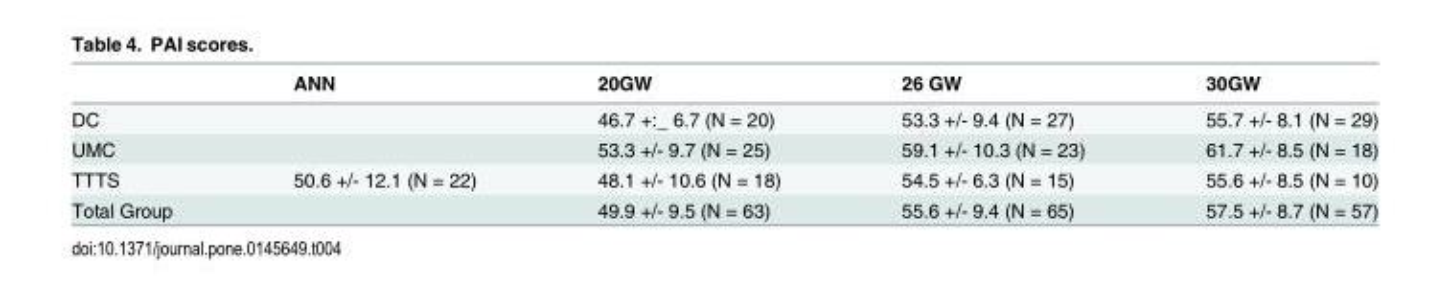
<table><thead><tr><td></td><td>ANN</td><td>20GW</td><td>26 GW</td><td>30GW</td></tr></thead><tbody><tr><td>DC</td><td></td><td>46.7 +:_ 6.7 (N = 20)</td><td>53.3 +/- 9.4 (N = 27)</td><td>55.7 +/- 8.1 (N = 29)</td></tr><tr><td>UMC</td><td></td><td>53.3 +/- 9.7 (N = 25)</td><td>59.1 +/- 10.3 (N = 23)</td><td>61.7 +/- 8.5 (N = 18)</td></tr><tr><td>TTTS</td><td>50.6 +/- 12.1 (N = 22)</td><td>48.1 +/- 10.6 (N = 18)</td><td>54.5 +/- 6.3 (N = 15)</td><td>55.6 +/- 8.5 (N = 10)</td></tr><tr><td>Total Group</td><td></td><td>49.9 +/- 9.5 (N = 63)</td><td>55.6 +/- 9.4 (N = 65)</td><td>57.5 +/- 8.7 (N = 57)</td></tr></tbody></table>